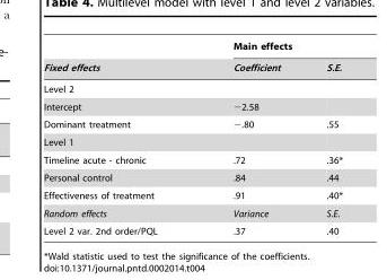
<table><thead><tr><td rowspan="2">Fixed effects</td><td colspan="2">Main effects</td></tr><tr><td>Coefficient</td><td>S.E.</td></tr></thead><tbody><tr><td colspan="3">Level 2</td></tr><tr><td>Intercept</td><td>−2.58</td><td></td></tr><tr><td>Dominant treatment</td><td>−.80</td><td>.55</td></tr><tr><td colspan="3">Level 1</td></tr><tr><td>Timeline acute - chronic</td><td>.72</td><td>.36*</td></tr><tr><td>Personal control</td><td>.84</td><td>.44</td></tr><tr><td>Effectiveness of treatment</td><td>.91</td><td>.40*</td></tr><tr><td>Random effects</td><td>Variance</td><td>S.E.</td></tr><tr><td>Level 2 var. 2nd order/PQL</td><td>.37</td><td>.40</td></tr></tbody></table>